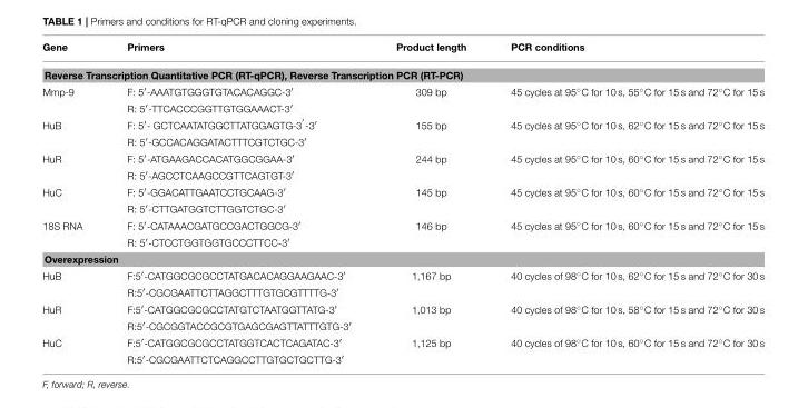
<table><thead><tr><td>Gene</td><td>Primers</td><td>Product length</td><td>PCR conditions</td></tr></thead><tbody><tr><td colspan="4">Reverse Transcription Quantitative PCR (RT-qPCR), Reverse Transcription PCR (RT-PCR)</td></tr><tr><td rowspan="2">Mmp-9</td><td>F: 5′-AAATGTGGGTGTACACAGGC-3′</td><td>309 bp</td><td>45 cycles at 95◦C for 10 s, 55◦C for 15 s and 72◦C for 15 s</td></tr><tr><td>R: 5′-TTCACCCGGTTGTGGAAACT-3′</td><td></td><td></td></tr><tr><td rowspan="2">HuB</td><td>F: 5′- GCTCAATATGGCTTATGGAGTG-3 ′-3′</td><td>155 bp</td><td>45 cycles at 95◦C for 10 s, 62◦C for 15 s and 72◦C for 15 s</td></tr><tr><td>R: 5′-GCCACAGGATACTTTCGTCTGC-3′</td><td></td><td></td></tr><tr><td rowspan="2">HuR</td><td>F: 5′-ATGAAGACCACATGGCGGAA-3′</td><td>244 bp</td><td>45 cycles at 95◦C for 10 s, 60◦C for 15 s and 72◦C for 15 s</td></tr><tr><td>R: 5′-AGCCTCAAGCCGTTCAGTGT-3′</td><td></td><td></td></tr><tr><td rowspan="2">HuC</td><td>F: 5′-GGACATTGAATCCTGCAAG-3′</td><td>145 bp</td><td>45 cycles at 95◦C for 10 s, 60◦C for 15 s and 72◦C for 15 s</td></tr><tr><td>R: 5′-CTTGATGGTCTTGGTCTGC-3′</td><td></td><td></td></tr><tr><td rowspan="2">18S RNA</td><td>F: 5′-CATAAACGATGCCGACTGGCG-3′</td><td>146 bp</td><td>45 cycles at 95◦C for 10 s, 60◦C for 15 s and 72◦C for 15 s</td></tr><tr><td>R: 5′-CTCCTGGTGGTGCCCTTCC-3′</td><td></td><td></td></tr><tr><td colspan="4">Overexpression</td></tr><tr><td rowspan="2">HuB</td><td>F:5′-CATGGCGCGCCTATGACACAGGAAGAAC-3′</td><td>1,167 bp</td><td>40 cycles of 98◦C for 10 s, 62◦C for 15 s and 72◦C for 30 s</td></tr><tr><td>R:5′-CGCGAATTCTTAGGCTTTGTGCGTTTTG-3′</td><td></td><td></td></tr><tr><td rowspan="2">HuR</td><td>F:5′-CATGGCGCGCCTATGTCTAATGGTTATG-3′</td><td>1,013 bp</td><td>40 cycles of 98◦C for 10 s, 58◦C for 15 s and 72◦C for 30 s</td></tr><tr><td>R:5′-CGCGGTACCGCGTGAGCGAGTTATTTGTG-3′</td><td></td><td></td></tr><tr><td rowspan="2">HuC</td><td>F:5′-CATGGCGCGCCTATGGTCACTCAGATAC-3′</td><td>1,125 bp</td><td>40 cycles of 98◦C for 10 s, 60◦C for 15 s and 72◦C for 30 s</td></tr><tr><td>R:5′-CGCGAATTCTCAGGCCTTGTGCTGCTTG-3′</td><td></td><td></td></tr></tbody></table>